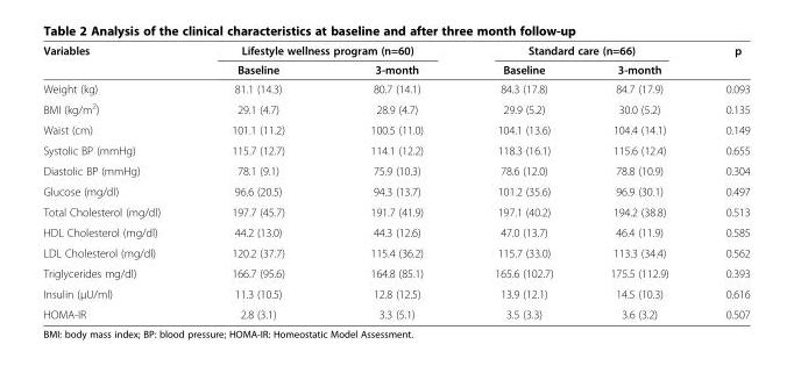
<table><thead><tr><td rowspan="2">Variables</td><td colspan="2">Lifestyle wellness program (n=60)</td><td colspan="2">Standard care (n=66)</td><td rowspan="2">p</td></tr><tr><td>Baseline</td><td>3-month</td><td>Baseline</td><td>3-month</td></tr></thead><tbody><tr><td>Weight (kg)</td><td>81.1 (14.3)</td><td>80.7 (14.1)</td><td>84.3 (17.8)</td><td>84.7 (17.9)</td><td>0.093</td></tr><tr><td>BMI (kg/m<sup>2</sup>)</td><td>29.1 (4.7)</td><td>28.9 (4.7)</td><td>29.9 (5.2)</td><td>30.0 (5.2)</td><td>0.135</td></tr><tr><td>Waist (cm)</td><td>101.1 (11.2)</td><td>100.5 (11.0)</td><td>104.1 (13.6)</td><td>104.4 (14.1)</td><td>0.149</td></tr><tr><td>Systolic BP (mmHg)</td><td>115.7 (12.7)</td><td>114.1 (12.2)</td><td>118.3 (16.1)</td><td>115.6 (12.4)</td><td>0.655</td></tr><tr><td>Diastolic BP (mmHg)</td><td>78.1 (9.1)</td><td>75.9 (10.3)</td><td>78.6 (12.0)</td><td>78.8 (10.9)</td><td>0.304</td></tr><tr><td>Glucose (mg/dl)</td><td>96.6 (20.5)</td><td>94.3 (13.7)</td><td>101.2 (35.6)</td><td>96.9 (30.1)</td><td>0.497</td></tr><tr><td>Total Cholesterol (mg/dl)</td><td>197.7 (45.7)</td><td>191.7 (41.9)</td><td>197.1 (40.2)</td><td>194.2 (38.8)</td><td>0.513</td></tr><tr><td>HDL Cholesterol (mg/dl)</td><td>44.2 (13.0)</td><td>44.3 (12.6)</td><td>47.0 (13.7)</td><td>46.4 (11.9)</td><td>0.585</td></tr><tr><td>LDL Cholesterol (mg/dl)</td><td>120.2 (37.7)</td><td>115.4 (36.2)</td><td>115.7 (33.0)</td><td>113.3 (34.4)</td><td>0.562</td></tr><tr><td>Triglycerides mg/dl)</td><td>166.7 (95.6)</td><td>164.8 (85.1)</td><td>165.6 (102.7)</td><td>175.5 (112.9)</td><td>0.393</td></tr><tr><td>Insulin (μU/ml)</td><td>11.3 (10.5)</td><td>12.8 (12.5)</td><td>13.9 (12.1)</td><td>14.5 (10.3)</td><td>0.616</td></tr><tr><td>HOMA-IR</td><td>2.8 (3.1)</td><td>3.3 (5.1)</td><td>3.5 (3.3)</td><td>3.6 (3.2)</td><td>0.507</td></tr></tbody></table>